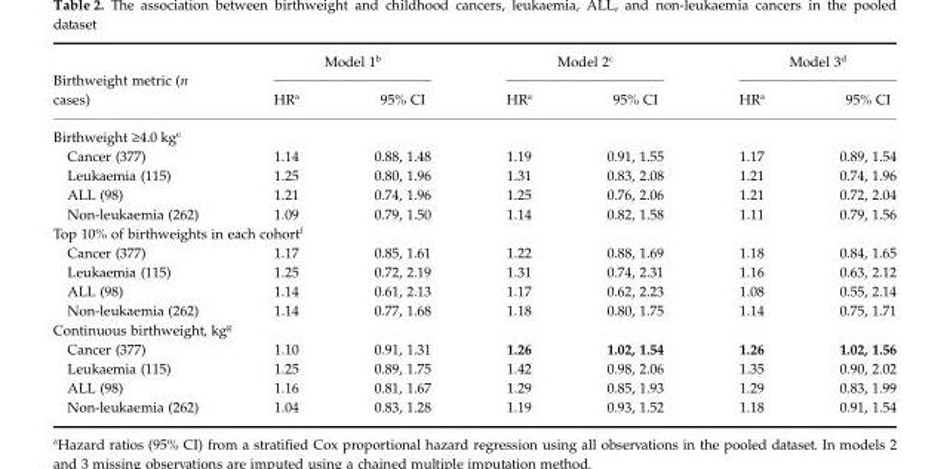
<table><thead><tr><td rowspan="2">Birthweight metric (n cases)</td><td colspan="2">Model 1<sup>b</sup></td><td colspan="2">Model 2<sup>c</sup></td><td colspan="2">Model 3<sup>d</sup></td></tr><tr><td>HR<sup>a</sup></td><td>95% CI</td><td>HR<sup>a</sup></td><td>95% CI</td><td>HR<sup>a</sup></td><td>95% CI</td></tr></thead><tbody><tr><td colspan="7">Birthweight ≥4.0 kg<sup>e</sup></td></tr><tr><td>Cancer (377)</td><td>1.14</td><td>0.88, 1.48</td><td>1.19</td><td>0.91, 1.55</td><td>1.17</td><td>0.89, 1.54</td></tr><tr><td>Leukaemia (115)</td><td>1.25</td><td>0.80, 1.96</td><td>1.31</td><td>0.83, 2.08</td><td>1.21</td><td>0.74, 1.96</td></tr><tr><td>ALL (98)</td><td>1.21</td><td>0.74, 1.96</td><td>1.25</td><td>0.76, 2.06</td><td>1.21</td><td>0.72, 2.04</td></tr><tr><td>Non-leukaemia (262)</td><td>1.09</td><td>0.79, 1.50</td><td>1.14</td><td>0.82, 1.58</td><td>1.11</td><td>0.79, 1.56</td></tr><tr><td colspan="7">Top 10% of birthweights in each cohort<sup>f</sup></td></tr><tr><td>Cancer (377)</td><td>1.17</td><td>0.85, 1.61</td><td>1.22</td><td>0.88, 1.69</td><td>1.18</td><td>0.84, 1.65</td></tr><tr><td>Leukaemia (115)</td><td>1.25</td><td>0.72, 2.19</td><td>1.31</td><td>0.74, 2.31</td><td>1.16</td><td>0.63, 2.12</td></tr><tr><td>ALL (98)</td><td>1.14</td><td>0.61, 2.13</td><td>1.17</td><td>0.62, 2.23</td><td>1.08</td><td>0.55, 2.14</td></tr><tr><td>Non-leukaemia (262)</td><td>1.14</td><td>0.77, 1.68</td><td>1.18</td><td>0.80, 1.75</td><td>1.14</td><td>0.75, 1.71</td></tr><tr><td colspan="7">Continuous birthweight, kg<sup>g</sup></td></tr><tr><td>Cancer (377)</td><td>1.10</td><td>0.91, 1.31</td><td>1.26</td><td>1.02, 1.54</td><td>1.26</td><td>1.02, 1.56</td></tr><tr><td>Leukaemia (115)</td><td>1.25</td><td>0.89, 1.75</td><td>1.42</td><td>0.98, 2.06</td><td>1.35</td><td>0.90, 2.02</td></tr><tr><td>ALL (98)</td><td>1.16</td><td>0.81, 1.67</td><td>1.29</td><td>0.85, 1.93</td><td>1.29</td><td>0.83, 1.99</td></tr><tr><td>Non-leukaemia (262)</td><td>1.04</td><td>0.83, 1.28</td><td>1.19</td><td>0.93, 1.52</td><td>1.18</td><td>0.91, 1.54</td></tr></tbody></table>